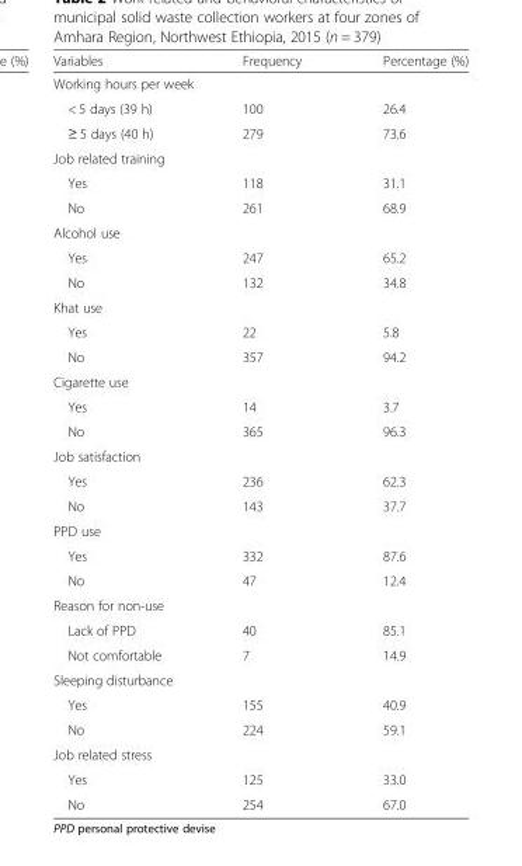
<table><thead><tr><td>Variables</td><td>Frequency</td><td>Percentage (%)</td></tr></thead><tbody><tr><td colspan="3">Working hours per week</td></tr><tr><td>&lt; 5 days (39 h)</td><td>100</td><td>26.4</td></tr><tr><td>≥ 5 days (40 h)</td><td>279</td><td>73.6</td></tr><tr><td colspan="3">Job related training</td></tr><tr><td>Yes</td><td>118</td><td>31.1</td></tr><tr><td>No</td><td>261</td><td>68.9</td></tr><tr><td colspan="3">Alcohol use</td></tr><tr><td>Yes</td><td>247</td><td>65.2</td></tr><tr><td>No</td><td>132</td><td>34.8</td></tr><tr><td colspan="3">Khat use</td></tr><tr><td>Yes</td><td>22</td><td>5.8</td></tr><tr><td>No</td><td>357</td><td>94.2</td></tr><tr><td colspan="3">Cigarette use</td></tr><tr><td>Yes</td><td>14</td><td>3.7</td></tr><tr><td>No</td><td>365</td><td>96.3</td></tr><tr><td colspan="3">Job satisfaction</td></tr><tr><td>Yes</td><td>236</td><td>62.3</td></tr><tr><td>No</td><td>143</td><td>37.7</td></tr><tr><td colspan="3">PPD use</td></tr><tr><td>Yes</td><td>332</td><td>87.6</td></tr><tr><td>No</td><td>47</td><td>12.4</td></tr><tr><td colspan="3">Reason for non-use</td></tr><tr><td>Lack of PPD</td><td>40</td><td>85.1</td></tr><tr><td>Not comfortable</td><td>7</td><td>14.9</td></tr><tr><td colspan="3">Sleeping disturbance</td></tr><tr><td>Yes</td><td>155</td><td>40.9</td></tr><tr><td>No</td><td>224</td><td>59.1</td></tr><tr><td colspan="3">Job related stress</td></tr><tr><td>Yes</td><td>125</td><td>33.0</td></tr><tr><td>No</td><td>254</td><td>67.0</td></tr></tbody></table>